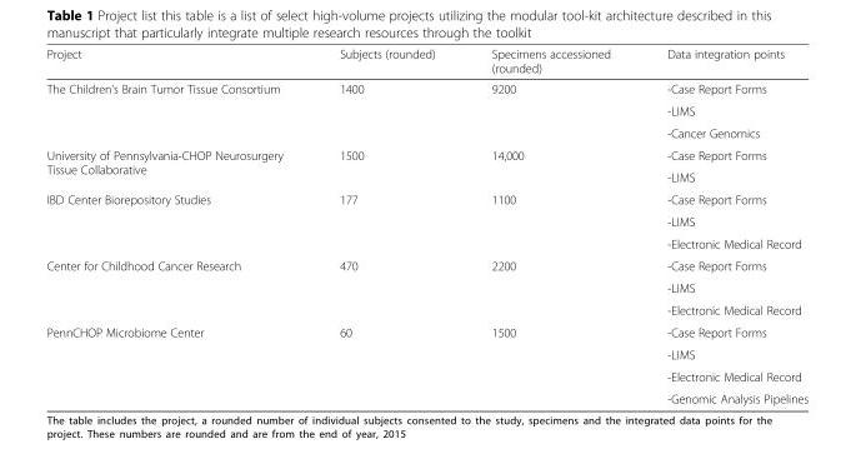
<table><thead><tr><td>Project</td><td>Subjects (rounded)</td><td>Specimens accessioned (rounded)</td><td>Data integration points</td></tr></thead><tbody><tr><td rowspan="3">The Children’s Brain Tumor Tissue Consortium</td><td rowspan="3">1400</td><td rowspan="3">9200</td><td>-Case Report Forms</td></tr><tr><td>-LIMS</td></tr><tr><td>-Cancer Genomics</td></tr><tr><td rowspan="2">University of Pennsylvania-CHOP Neurosurgery Tissue Collaborative</td><td rowspan="2">1500</td><td rowspan="2">14,000</td><td>-Case Report Forms</td></tr><tr><td>-LIMS</td></tr><tr><td rowspan="3">IBD Center Biorepository Studies</td><td rowspan="3">177</td><td rowspan="3">1100</td><td>-Case Report Forms</td></tr><tr><td>-LIMS</td></tr><tr><td>-Electronic Medical Record</td></tr><tr><td rowspan="3">Center for Childhood Cancer Research</td><td rowspan="3">470</td><td rowspan="3">2200</td><td>-Case Report Forms</td></tr><tr><td>-LIMS</td></tr><tr><td>-Electronic Medical Record</td></tr><tr><td rowspan="4">PennCHOP Microbiome Center</td><td rowspan="4">60</td><td rowspan="4">1500</td><td>-Case Report Forms</td></tr><tr><td>-LIMS</td></tr><tr><td>-Electronic Medical Record</td></tr><tr><td>-Genomic Analysis Pipelines</td></tr></tbody></table>